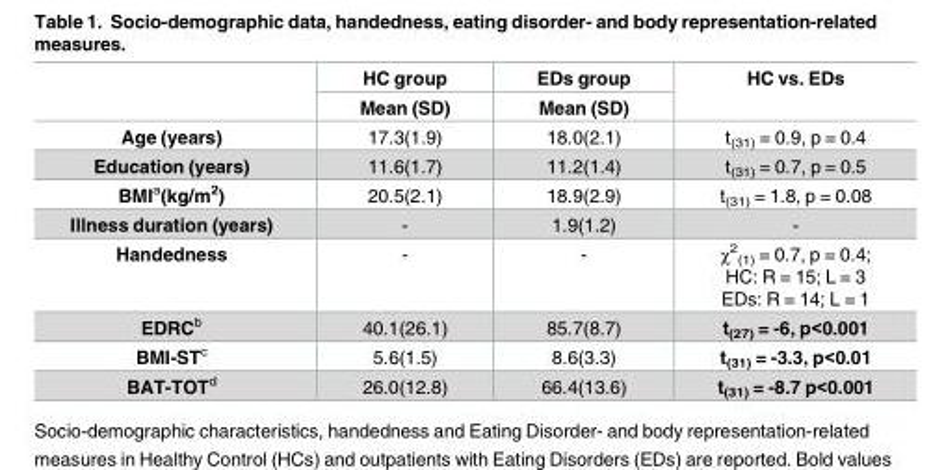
<table><thead><tr><td rowspan="2"></td><td rowspan="2">HC group Mean (SD)</td><td rowspan="2">EDs group Mean (SD)</td><td rowspan="2">HC vs. EDs</td></tr><tr></tr></thead><tbody><tr><td>Age (years)</td><td>17.3(1.9)</td><td>18.0(2.1)</td><td>t<sub>(31)</sub> = 0.9, p = 0.4</td></tr><tr><td>Education (years)</td><td>11.6(1.7)</td><td>11.2(1.4)</td><td>t<sub>(31)</sub> = 0.7, p = 0.5</td></tr><tr><td>BMI<sup>a</sup>(kg/m<sup>2</sup>)</td><td>20.5(2.1)</td><td>18.9(2.9)</td><td>t<sub>(31)</sub> = 1.8, p = 0.08</td></tr><tr><td>Illness duration (years)</td><td>-</td><td>1.9(1.2)</td><td>-</td></tr><tr><td>Handedness</td><td>-</td><td>-</td><td>χ<sup>2</sup> <sub>(1)</sub> = 0.7, p = 0.4; HC: R = 15; L = 3 EDs: R = 14; L = 1</td></tr><tr><td>EDRC<sup>b</sup></td><td>40.1(26.1)</td><td>85.7(8.7)</td><td>t<sub>(27)</sub> = -6, p&lt;0.001</td></tr><tr><td>BMI-ST<sup>c</sup></td><td>5.6(1.5)</td><td>8.6(3.3)</td><td>t<sub>(31)</sub> = -3.3, p&lt;0.01</td></tr><tr><td>BAT-TOT<sup>d</sup></td><td>26.0(12.8)</td><td>66.4(13.6)</td><td>t<sub>(31)</sub> = -8.7 p&lt;0.001</td></tr></tbody></table>